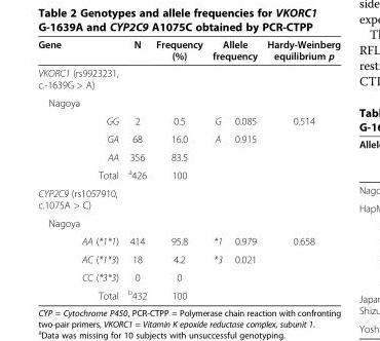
<table><thead><tr><td rowspan="2">Gene VKORC1 (rs9923231, c.-1639G &gt; A)</td><td rowspan="2">N</td><td rowspan="2">Frequency (%)</td><td colspan="2">Allele frequency</td><td rowspan="2">Hardy-Weinberg equilibrium p</td></tr><tr><td></td><td></td></tr></thead><tbody><tr><td colspan="6">Nagoya</td></tr><tr><td>GG</td><td>2</td><td>0.5</td><td>G</td><td>0.085</td><td>0.514</td></tr><tr><td>GA</td><td>68</td><td>16.0</td><td>A</td><td>0.915</td><td></td></tr><tr><td>AA</td><td>356</td><td>83.5</td><td></td><td></td><td></td></tr><tr><td>Total</td><td><sup>a</sup>426</td><td>100</td><td></td><td></td><td></td></tr><tr><td colspan="6">CYP2C9 (rs1057910, c.1075A &gt; C)</td></tr><tr><td colspan="6">Nagoya</td></tr><tr><td>AA (*1*1)</td><td>414</td><td>95.8</td><td>*1</td><td>0.979</td><td>0.658</td></tr><tr><td>AC (*1*3)</td><td>18</td><td>4.2</td><td>*3</td><td>0.021</td><td></td></tr><tr><td>CC (*3*3)</td><td>0</td><td>0</td><td></td><td></td><td></td></tr><tr><td>Total</td><td><sup>b</sup>432</td><td>100</td><td></td><td></td><td></td></tr></tbody></table>